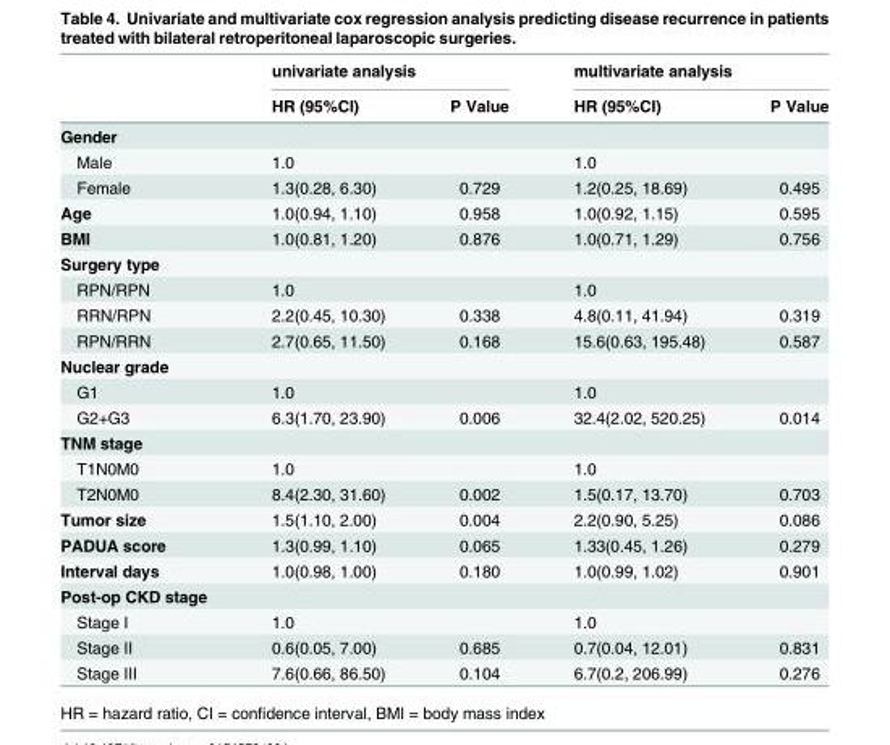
<table><thead><tr><td rowspan="2"></td><td colspan="2">univariate analysis</td><td colspan="2">multivariate analysis</td></tr><tr><td>HR (95%CI)</td><td>P Value</td><td>HR (95%CI)</td><td>P Value</td></tr></thead><tbody><tr><td colspan="5">Gender</td></tr><tr><td>Male</td><td>1.0</td><td></td><td>1.0</td><td></td></tr><tr><td>Female</td><td>1.3(0.28, 6.30)</td><td>0.729</td><td>1.2(0.25, 18.69)</td><td>0.495</td></tr><tr><td>Age</td><td>1.0(0.94, 1.10)</td><td>0.958</td><td>1.0(0.92, 1.15)</td><td>0.595</td></tr><tr><td>BMI</td><td>1.0(0.81, 1.20)</td><td>0.876</td><td>1.0(0.71, 1.29)</td><td>0.756</td></tr><tr><td colspan="5">Surgery type</td></tr><tr><td>RPN/RPN</td><td>1.0</td><td></td><td>1.0</td><td></td></tr><tr><td>RRN/RPN</td><td>2.2(0.45, 10.30)</td><td>0.338</td><td>4.8(0.11, 41.94)</td><td>0.319</td></tr><tr><td>RPN/RRN</td><td>2.7(0.65, 11.50)</td><td>0.168</td><td>15.6(0.63, 195.48)</td><td>0.587</td></tr><tr><td colspan="5">Nuclear grade</td></tr><tr><td>G1</td><td>1.0</td><td></td><td>1.0</td><td></td></tr><tr><td>G2+G3</td><td>6.3(1.70, 23.90)</td><td>0.006</td><td>32.4(2.02, 520.25)</td><td>0.014</td></tr><tr><td colspan="5">TNM stage</td></tr><tr><td>T1N0M0</td><td>1.0</td><td></td><td>1.0</td><td></td></tr><tr><td>T2N0M0</td><td>8.4(2.30, 31.60)</td><td>0.002</td><td>1.5(0.17, 13.70)</td><td>0.703</td></tr><tr><td>Tumor size</td><td>1.5(1.10, 2.00)</td><td>0.004</td><td>2.2(0.90, 5.25)</td><td>0.086</td></tr><tr><td>PADUA score</td><td>1.3(0.99, 1.10)</td><td>0.065</td><td>1.33(0.45, 1.26)</td><td>0.279</td></tr><tr><td>Interval days</td><td>1.0(0.98, 1.00)</td><td>0.180</td><td>1.0(0.99, 1.02)</td><td>0.901</td></tr><tr><td colspan="5">Post-op CKD stage</td></tr><tr><td>Stage I</td><td>1.0</td><td></td><td>1.0</td><td></td></tr><tr><td>Stage II</td><td>0.6(0.05, 7.00)</td><td>0.685</td><td>0.7(0.04, 12.01)</td><td>0.831</td></tr><tr><td>Stage III</td><td>7.6(0.66, 86.50)</td><td>0.104</td><td>6.7(0.2, 206.99)</td><td>0.276</td></tr></tbody></table>